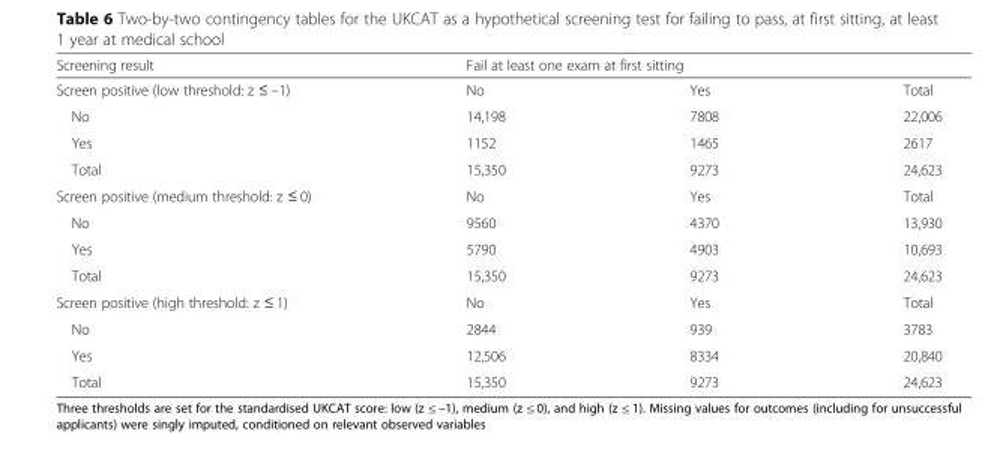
<table><thead><tr><td rowspan="2">Screening result Screen positive (low threshold: z ≤ –1)</td><td colspan="3">Fail at least one exam at first sitting</td></tr><tr><td>No</td><td>Yes</td><td>Total</td></tr></thead><tbody><tr><td>No</td><td>14,198</td><td>7808</td><td>22,006</td></tr><tr><td>Yes</td><td>1152</td><td>1465</td><td>2617</td></tr><tr><td>Total</td><td>15,350</td><td>9273</td><td>24,623</td></tr><tr><td>Screen positive (medium threshold: z ≤ 0)</td><td>No</td><td>Yes</td><td>Total</td></tr><tr><td>No</td><td>9560</td><td>4370</td><td>13,930</td></tr><tr><td>Yes</td><td>5790</td><td>4903</td><td>10,693</td></tr><tr><td>Total</td><td>15,350</td><td>9273</td><td>24,623</td></tr><tr><td>Screen positive (high threshold: z ≤ 1)</td><td>No</td><td>Yes</td><td>Total</td></tr><tr><td>No</td><td>2844</td><td>939</td><td>3783</td></tr><tr><td>Yes</td><td>12,506</td><td>8334</td><td>20,840</td></tr><tr><td>Total</td><td>15,350</td><td>9273</td><td>24,623</td></tr></tbody></table>